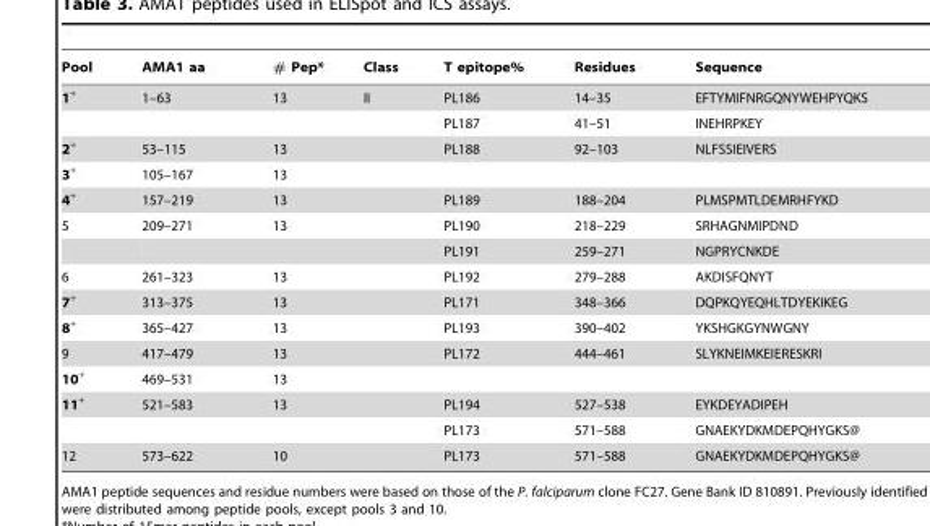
<table><thead><tr><td>Pool</td><td>AMA1 aa</td><td># Pep*</td><td>Class</td><td>T epitope%</td><td>Residues</td><td>Sequence</td></tr></thead><tbody><tr><td rowspan="2">1+</td><td>1–63</td><td>13</td><td>II</td><td>PL186</td><td>14–35</td><td>EFTYMIFNRGQNYWEHPYQKS</td></tr><tr><td></td><td></td><td></td><td>PL187</td><td>41–51</td><td>INEHRPKEY</td></tr><tr><td>2+</td><td>53–115</td><td>13</td><td></td><td>PL188</td><td>92–103</td><td>NLFSSIEIVERS</td></tr><tr><td>3+</td><td>105–167</td><td>13</td><td></td><td></td><td></td><td></td></tr><tr><td>4+</td><td>157–219</td><td>13</td><td></td><td>PL189</td><td>188–204</td><td>PLMSPMTLDEMRHFYKD</td></tr><tr><td rowspan="2">5</td><td>209–271</td><td>13</td><td></td><td>PL190</td><td>218–229</td><td>SRHAGNMIPDND</td></tr><tr><td></td><td></td><td></td><td>PL191</td><td>259–271</td><td>NGPRYCNKDE</td></tr><tr><td>6</td><td>261–323</td><td>13</td><td></td><td>PL192</td><td>279–288</td><td>AKDISFQNYT</td></tr><tr><td>7+</td><td>313–375</td><td>13</td><td></td><td>PL171</td><td>348–366</td><td>DQPKQYEQHLTDYEKIKEG</td></tr><tr><td>8+</td><td>365–427</td><td>13</td><td></td><td>PL193</td><td>390–402</td><td>YKSHGKGYNWGNY</td></tr><tr><td>9</td><td>417–479</td><td>13</td><td></td><td>PL172</td><td>444–461</td><td>SLYKNEIMKEIERESKRI</td></tr><tr><td>10+</td><td>469–531</td><td>13</td><td></td><td></td><td></td><td></td></tr><tr><td rowspan="2">11+</td><td>521–583</td><td>13</td><td></td><td>PL194</td><td>527–538</td><td>EYKDEYADIPEH</td></tr><tr><td></td><td></td><td></td><td>PL173</td><td>571–588</td><td>GNAEKYDKMDEPQHYGKS@</td></tr><tr><td>12</td><td>573–622</td><td>10</td><td></td><td>PL173</td><td>571–588</td><td>GNAEKYDKMDEPQHYGKS@</td></tr></tbody></table>